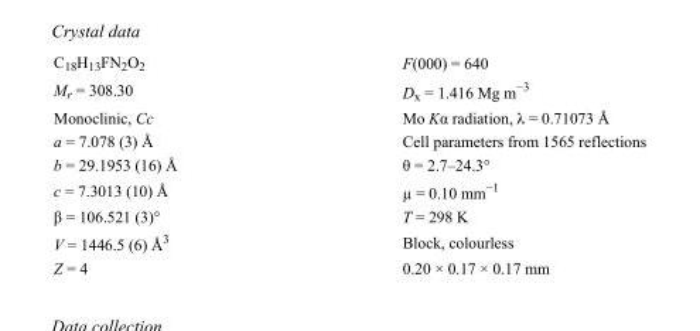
<table><tbody><tr><td>C<sub>18</sub>H<sub>13</sub>FN<sub>2</sub>O<sub>2</sub></td><td>F(000) = 640</td></tr><tr><td>M<sub>r</sub> = 308.30</td><td>D<sub>x</sub> = 1.416 Mg m<sup>−3</sup></td></tr><tr><td>Monoclinic, Cc</td><td>Mo Kα radiation, λ = 0.71073 Å</td></tr><tr><td>a = 7.078 (3) Å</td><td>Cell parameters from 1565 reflections</td></tr><tr><td>b = 29.1953 (16) Å</td><td>θ = 2.7–24.3°</td></tr><tr><td>c = 7.3013 (10) Å</td><td>µ = 0.10 mm<sup>−1</sup></td></tr><tr><td>β = 106.521 (3)°</td><td>T = 298 K</td></tr><tr><td>V = 1446.5 (6) Å<sup>3</sup></td><td>Block, colourless</td></tr><tr><td>Z = 4</td><td>0.20 × 0.17 × 0.17 mm</td></tr></tbody></table>